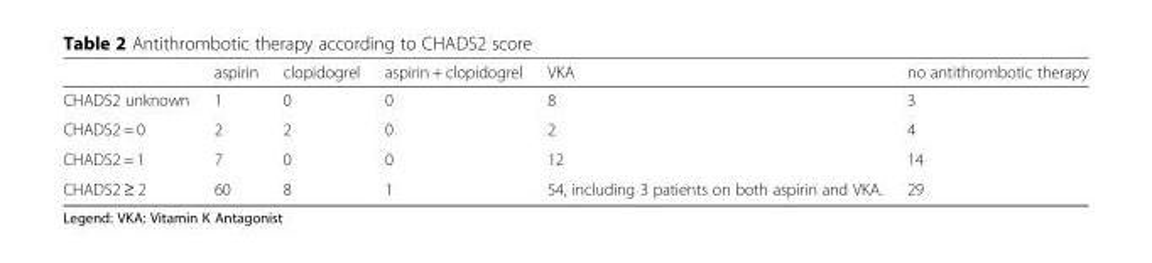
<table><thead><tr><td></td><td>aspirin</td><td>clopidogrel</td><td>aspirin + clopidogrel</td><td>VKA</td><td>no antithrombotic therapy</td></tr></thead><tbody><tr><td>CHADS2 unknown</td><td>1</td><td>0</td><td>0</td><td>8</td><td>3</td></tr><tr><td>CHADS2 = 0</td><td>2</td><td>2</td><td>0</td><td>2</td><td>4</td></tr><tr><td>CHADS2 = 1</td><td>7</td><td>0</td><td>0</td><td>12</td><td>14</td></tr><tr><td>CHADS2 ≥ 2</td><td>60</td><td>8</td><td>1</td><td>54, including 3 patients on both aspirin and VKA.</td><td>29</td></tr></tbody></table>